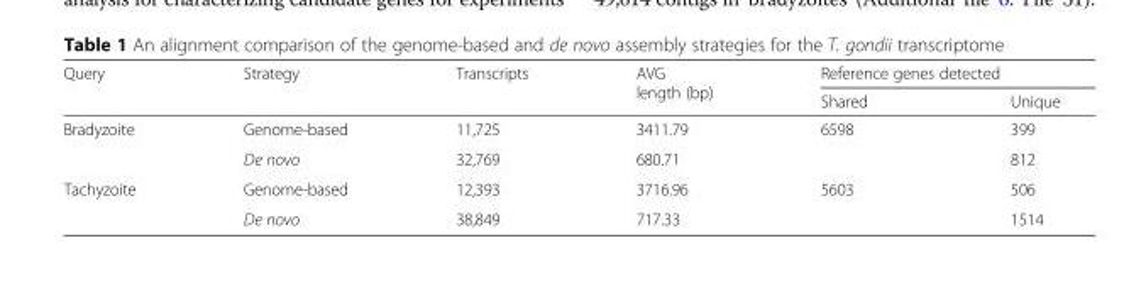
<table><thead><tr><td rowspan="2">Query</td><td rowspan="2">Strategy</td><td rowspan="2">Transcripts</td><td rowspan="2">AVG length (bp)</td><td colspan="2">Reference genes detected</td></tr><tr><td>Shared</td><td>Unique</td></tr></thead><tbody><tr><td rowspan="2">Bradyzoite</td><td>Genome-based</td><td>11,725</td><td>3411.79</td><td rowspan="2">6598</td><td>399</td></tr><tr><td>De novo</td><td>32,769</td><td>680.71</td><td>812</td></tr><tr><td rowspan="2">Tachyzoite</td><td>Genome-based</td><td>12,393</td><td>3716.96</td><td rowspan="2">5603</td><td>506</td></tr><tr><td>De novo</td><td>38,849</td><td>717.33</td><td>1514</td></tr></tbody></table>